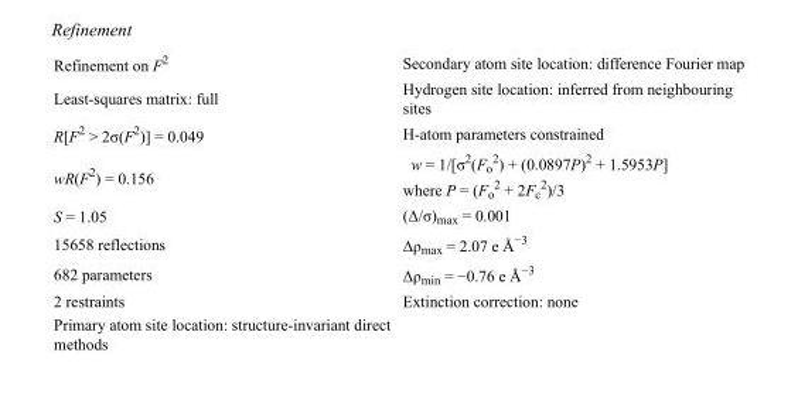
<table><tbody><tr><td>Refinement on F<sup>2</sup></td><td>Secondary atom site location: difference Fourier map</td></tr><tr><td>Least-squares matrix: full</td><td>Hydrogen site location: inferred from neighbouring sites</td></tr><tr><td>R[F<sup>2</sup> &gt; 2σ(F<sup>2</sup>)] = 0.049</td><td>H-atom parameters constrained</td></tr><tr><td>wR(F<sup>2</sup>) = 0.156</td><td>w = 1/[σ<sup>2</sup>(F<sub>o</sub> <sup>2</sup>) + (0.0897P)<sup>2</sup> + 1.5953P] where P = (F<sub>o</sub> <sup>2</sup> + 2F<sub>c</sub> <sup>2</sup>)/3</td></tr><tr><td>S = 1.05</td><td>(Δ/σ)<sub>max</sub> = 0.001</td></tr><tr><td>15658 reflections</td><td>Δρ<sub>max</sub> = 2.07 e Å<sup>−3</sup></td></tr><tr><td>682 parameters</td><td>Δρ<sub>min</sub> = −0.76 e Å<sup>−3</sup></td></tr><tr><td>2 restraints</td><td>Extinction correction: none</td></tr><tr><td>Primary atom site location: structure-invariant direct methods</td><td></td></tr></tbody></table>